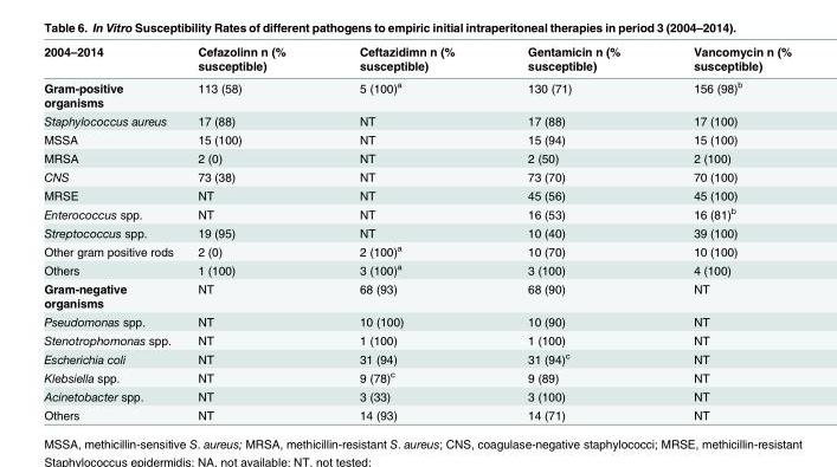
<table><thead><tr><td>2004–2014</td><td>Cefazolinn n (% susceptible)</td><td>Ceftazidimn n (% susceptible)</td><td>Gentamicin n (% susceptible)</td><td>Vancomycin n (% susceptible)</td></tr></thead><tbody><tr><td>Gram-positive organisms</td><td>113 (58)</td><td>5 (100)<sup>a</sup></td><td>130 (71)</td><td>156 (98)<sup>b</sup></td></tr><tr><td>Staphylococcus aureus</td><td>17 (88)</td><td>NT</td><td>17 (88)</td><td>17 (100)</td></tr><tr><td>MSSA</td><td>15 (100)</td><td>NT</td><td>15 (94)</td><td>15 (100)</td></tr><tr><td>MRSA</td><td>2 (0)</td><td>NT</td><td>2 (50)</td><td>2 (100)</td></tr><tr><td>CNS</td><td>73 (38)</td><td>NT</td><td>73 (70)</td><td>70 (100)</td></tr><tr><td>MRSE</td><td>NT</td><td>NT</td><td>45 (56)</td><td>45 (100)</td></tr><tr><td>Enterococcus spp.</td><td>NT</td><td>NT</td><td>16 (53)</td><td>16 (81)<sup>b</sup></td></tr><tr><td>Streptococcus spp.</td><td>19 (95)</td><td>NT</td><td>10 (40)</td><td>39 (100)</td></tr><tr><td>Other gram positive rods</td><td>2 (0)</td><td>2 (100)<sup>a</sup></td><td>10 (70)</td><td>10 (100)</td></tr><tr><td>Others</td><td>1 (100)</td><td>3 (100)<sup>a</sup></td><td>3 (100)</td><td>4 (100)</td></tr><tr><td>Gram-negative organisms</td><td>NT</td><td>68 (93)</td><td>68 (90)</td><td>NT</td></tr><tr><td>Pseudomonas spp.</td><td>NT</td><td>10 (100)</td><td>10 (90)</td><td>NT</td></tr><tr><td>Stenotrophomonas spp.</td><td>NT</td><td>1 (100)</td><td>1 (100)</td><td>NT</td></tr><tr><td>Escherichia coli</td><td>NT</td><td>31 (94)</td><td>31 (94)<sup>c</sup></td><td>NT</td></tr><tr><td>Klebsiella spp.</td><td>NT</td><td>9 (78)<sup>c</sup></td><td>9 (89)</td><td>NT</td></tr><tr><td>Acinetobacter spp.</td><td>NT</td><td>3 (33)</td><td>3 (100)</td><td>NT</td></tr><tr><td>Others</td><td>NT</td><td>14 (93)</td><td>14 (71)</td><td>NT</td></tr></tbody></table>